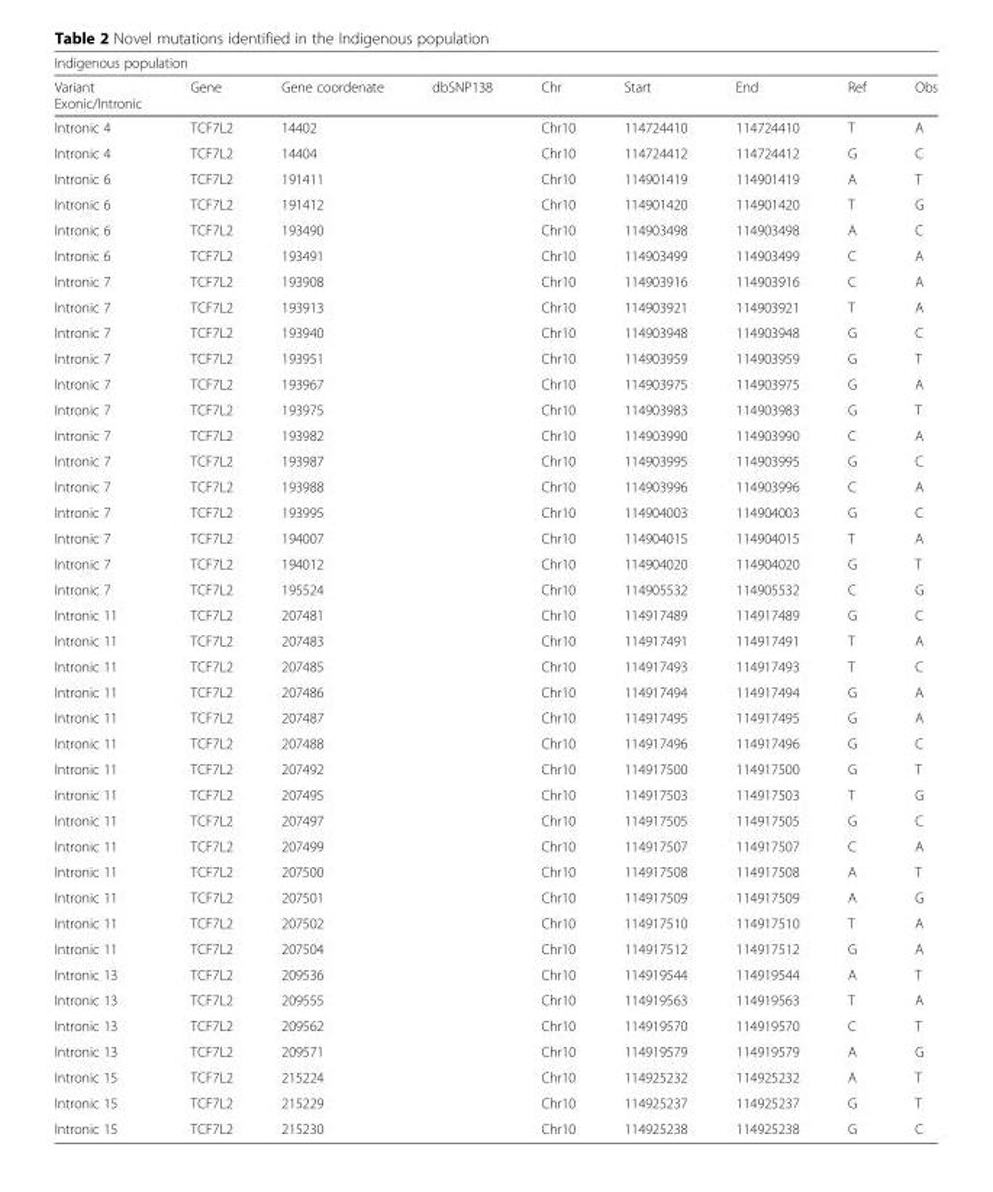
<table><thead><tr><td colspan="9">Indigenous population</td></tr><tr><td>Variant Exonic/Intronic</td><td>Gene</td><td>Gene coordenate</td><td>dbSNP138</td><td>Chr</td><td>Start</td><td>End</td><td>Ref</td><td>Obs</td></tr></thead><tbody><tr><td>Intronic 4</td><td>TCF7L2</td><td>14402</td><td></td><td>Chr10</td><td>114724410</td><td>114724410</td><td>T</td><td>A</td></tr><tr><td>Intronic 4</td><td>TCF7L2</td><td>14404</td><td></td><td>Chr10</td><td>114724412</td><td>114724412</td><td>G</td><td>C</td></tr><tr><td>Intronic 6</td><td>TCF7L2</td><td>191411</td><td></td><td>Chr10</td><td>114901419</td><td>114901419</td><td>A</td><td>T</td></tr><tr><td>Intronic 6</td><td>TCF7L2</td><td>191412</td><td></td><td>Chr10</td><td>114901420</td><td>114901420</td><td>T</td><td>G</td></tr><tr><td>Intronic 6</td><td>TCF7L2</td><td>193490</td><td></td><td>Chr10</td><td>114903498</td><td>114903498</td><td>A</td><td>C</td></tr><tr><td>Intronic 6</td><td>TCF7L2</td><td>193491</td><td></td><td>Chr10</td><td>114903499</td><td>114903499</td><td>C</td><td>A</td></tr><tr><td>Intronic 7</td><td>TCF7L2</td><td>193908</td><td></td><td>Chr10</td><td>114903916</td><td>114903916</td><td>C</td><td>A</td></tr><tr><td>Intronic 7</td><td>TCF7L2</td><td>193913</td><td></td><td>Chr10</td><td>114903921</td><td>114903921</td><td>T</td><td>A</td></tr><tr><td>Intronic 7</td><td>TCF7L2</td><td>193940</td><td></td><td>Chr10</td><td>114903948</td><td>114903948</td><td>G</td><td>C</td></tr><tr><td>Intronic 7</td><td>TCF7L2</td><td>193951</td><td></td><td>Chr10</td><td>114903959</td><td>114903959</td><td>G</td><td>T</td></tr><tr><td>Intronic 7</td><td>TCF7L2</td><td>193967</td><td></td><td>Chr10</td><td>114903975</td><td>114903975</td><td>G</td><td>A</td></tr><tr><td>Intronic 7</td><td>TCF7L2</td><td>193975</td><td></td><td>Chr10</td><td>114903983</td><td>114903983</td><td>G</td><td>T</td></tr><tr><td>Intronic 7</td><td>TCF7L2</td><td>193982</td><td></td><td>Chr10</td><td>114903990</td><td>114903990</td><td>C</td><td>A</td></tr><tr><td>Intronic 7</td><td>TCF7L2</td><td>193987</td><td></td><td>Chr10</td><td>114903995</td><td>114903995</td><td>G</td><td>C</td></tr><tr><td>Intronic 7</td><td>TCF7L2</td><td>193988</td><td></td><td>Chr10</td><td>114903996</td><td>114903996</td><td>C</td><td>A</td></tr><tr><td>Intronic 7</td><td>TCF7L2</td><td>193995</td><td></td><td>Chr10</td><td>114904003</td><td>114904003</td><td>G</td><td>C</td></tr><tr><td>Intronic 7</td><td>TCF7L2</td><td>194007</td><td></td><td>Chr10</td><td>114904015</td><td>114904015</td><td>T</td><td>A</td></tr><tr><td>Intronic 7</td><td>TCF7L2</td><td>194012</td><td></td><td>Chr10</td><td>114904020</td><td>114904020</td><td>G</td><td>T</td></tr><tr><td>Intronic 7</td><td>TCF7L2</td><td>195524</td><td></td><td>Chr10</td><td>114905532</td><td>114905532</td><td>C</td><td>G</td></tr><tr><td>Intronic 11</td><td>TCF7L2</td><td>207481</td><td></td><td>Chr10</td><td>114917489</td><td>114917489</td><td>G</td><td>C</td></tr><tr><td>Intronic 11</td><td>TCF7L2</td><td>207483</td><td></td><td>Chr10</td><td>114917491</td><td>114917491</td><td>T</td><td>A</td></tr><tr><td>Intronic 11</td><td>TCF7L2</td><td>207485</td><td></td><td>Chr10</td><td>114917493</td><td>114917493</td><td>T</td><td>C</td></tr><tr><td>Intronic 11</td><td>TCF7L2</td><td>207486</td><td></td><td>Chr10</td><td>114917494</td><td>114917494</td><td>G</td><td>A</td></tr><tr><td>Intronic 11</td><td>TCF7L2</td><td>207487</td><td></td><td>Chr10</td><td>114917495</td><td>114917495</td><td>G</td><td>A</td></tr><tr><td>Intronic 11</td><td>TCF7L2</td><td>207488</td><td></td><td>Chr10</td><td>114917496</td><td>114917496</td><td>G</td><td>C</td></tr><tr><td>Intronic 11</td><td>TCF7L2</td><td>207492</td><td></td><td>Chr10</td><td>114917500</td><td>114917500</td><td>G</td><td>T</td></tr><tr><td>Intronic 11</td><td>TCF7L2</td><td>207495</td><td></td><td>Chr10</td><td>114917503</td><td>114917503</td><td>T</td><td>G</td></tr><tr><td>Intronic 11</td><td>TCF7L2</td><td>207497</td><td></td><td>Chr10</td><td>114917505</td><td>114917505</td><td>G</td><td>C</td></tr><tr><td>Intronic 11</td><td>TCF7L2</td><td>207499</td><td></td><td>Chr10</td><td>114917507</td><td>114917507</td><td>C</td><td>A</td></tr><tr><td>Intronic 11</td><td>TCF7L2</td><td>207500</td><td></td><td>Chr10</td><td>114917508</td><td>114917508</td><td>A</td><td>T</td></tr><tr><td>Intronic 11</td><td>TCF7L2</td><td>207501</td><td></td><td>Chr10</td><td>114917509</td><td>114917509</td><td>A</td><td>G</td></tr><tr><td>Intronic 11</td><td>TCF7L2</td><td>207502</td><td></td><td>Chr10</td><td>114917510</td><td>114917510</td><td>T</td><td>A</td></tr><tr><td>Intronic 11</td><td>TCF7L2</td><td>207504</td><td></td><td>Chr10</td><td>114917512</td><td>114917512</td><td>G</td><td>A</td></tr><tr><td>Intronic 13</td><td>TCF7L2</td><td>209536</td><td></td><td>Chr10</td><td>114919544</td><td>114919544</td><td>A</td><td>T</td></tr><tr><td>Intronic 13</td><td>TCF7L2</td><td>209555</td><td></td><td>Chr10</td><td>114919563</td><td>114919563</td><td>T</td><td>A</td></tr><tr><td>Intronic 13</td><td>TCF7L2</td><td>209562</td><td></td><td>Chr10</td><td>114919570</td><td>114919570</td><td>C</td><td>T</td></tr><tr><td>Intronic 13</td><td>TCF7L2</td><td>209571</td><td></td><td>Chr10</td><td>114919579</td><td>114919579</td><td>A</td><td>G</td></tr><tr><td>Intronic 15</td><td>TCF7L2</td><td>215224</td><td></td><td>Chr10</td><td>114925232</td><td>114925232</td><td>A</td><td>T</td></tr><tr><td>Intronic 15</td><td>TCF7L2</td><td>215229</td><td></td><td>Chr10</td><td>114925237</td><td>114925237</td><td>G</td><td>T</td></tr><tr><td>Intronic 15</td><td>TCF7L2</td><td>215230</td><td></td><td>Chr10</td><td>114925238</td><td>114925238</td><td>G</td><td>C</td></tr></tbody></table>